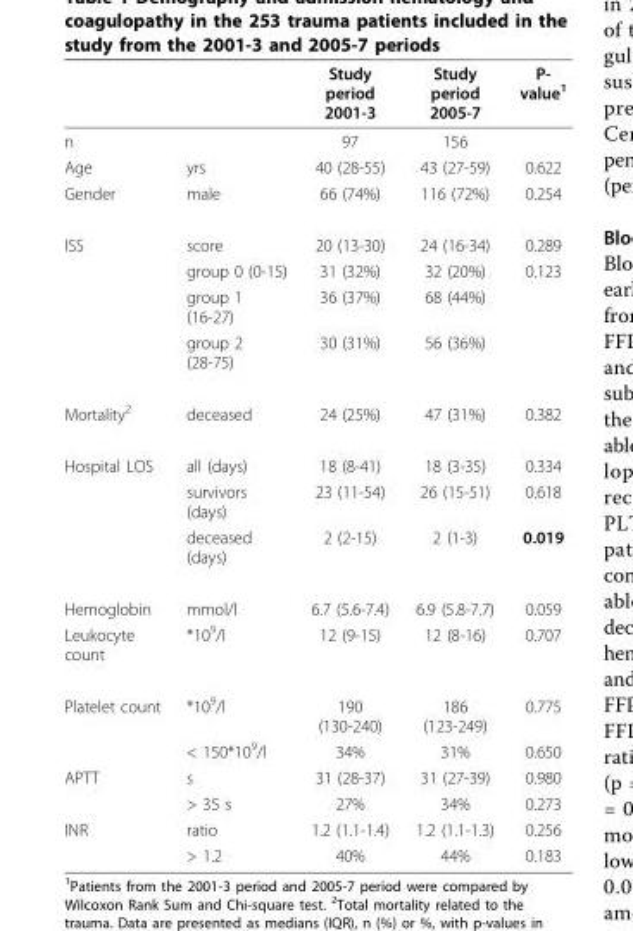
<table><thead><tr><td></td><td></td><td>Study period 2001-3</td><td>Study period 2005-7</td><td>P- value<sup>1</sup></td></tr></thead><tbody><tr><td>n</td><td></td><td>97</td><td>156</td><td></td></tr><tr><td>Age</td><td>yrs</td><td>40 (28-55)</td><td>43 (27-59)</td><td>0.622</td></tr><tr><td>Gender</td><td>male</td><td>66 (74%)</td><td>116 (72%)</td><td>0.254</td></tr><tr><td rowspan="4">ISS</td><td>score</td><td>20 (13-30)</td><td>24 (16-34)</td><td>0.289</td></tr><tr><td>group 0 (0-15)</td><td>31 (32%)</td><td>32 (20%)</td><td>0.123</td></tr><tr><td>group 1 (16-27)</td><td>36 (37%)</td><td>68 (44%)</td><td></td></tr><tr><td>group 2 (28-75)</td><td>30 (31%)</td><td>56 (36%)</td><td></td></tr><tr><td>Mortality<sup>2</sup></td><td>deceased</td><td>24 (25%)</td><td>47 (31%)</td><td>0.382</td></tr><tr><td rowspan="3">Hospital LOS</td><td>all (days)</td><td>18 (8-41)</td><td>18 (3-35)</td><td>0.334</td></tr><tr><td>survivors (days)</td><td>23 (11-54)</td><td>26 (15-51)</td><td>0.618</td></tr><tr><td>deceased (days)</td><td>2 (2-15)</td><td>2 (1-3)</td><td>0.019</td></tr><tr><td>Hemoglobin</td><td>mmol/l</td><td>6.7 (5.6-7.4)</td><td>6.9 (5.8-7.7)</td><td>0.059</td></tr><tr><td>Leukocyte count</td><td>*10<sup>9</sup>/l</td><td>12 (9-15)</td><td>12 (8-16)</td><td>0.707</td></tr><tr><td rowspan="2">Platelet count</td><td>*10<sup>9</sup>/l</td><td>190 (130-240)</td><td>186 (123-249)</td><td>0.775</td></tr><tr><td>&lt; 150*10<sup>9</sup>/l</td><td>34%</td><td>31%</td><td>0.650</td></tr><tr><td rowspan="2">APTT</td><td>s</td><td>31 (28-37)</td><td>31 (27-39)</td><td>0.980</td></tr><tr><td>&gt; 35 s</td><td>27%</td><td>34%</td><td>0.273</td></tr><tr><td rowspan="2">INR</td><td>ratio</td><td>1.2 (1.1-1.4)</td><td>1.2 (1.1-1.3)</td><td>0.256</td></tr><tr><td>&gt; 1.2</td><td>40%</td><td>44%</td><td>0.183</td></tr></tbody></table>